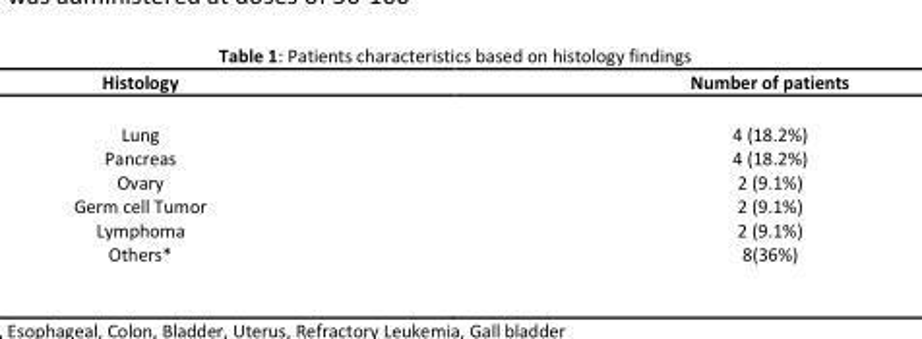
<table><thead><tr><td>Histology</td><td>Number of patients</td></tr></thead><tbody><tr><td>Lung Pancreas Ovary Germ cell Tumor Lymphoma Others*</td><td>4 (18.2%) 4 (18.2%) 2 (9.1%) 2 (9.1%) 2 (9.1%) 8(36%)</td></tr></tbody></table>